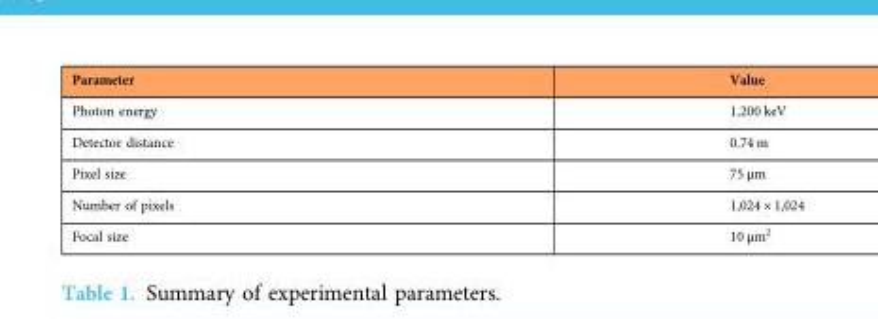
<table><thead><tr><td>Parameter</td><td>Value</td></tr></thead><tbody><tr><td>Photon energy</td><td>1,200 keV</td></tr><tr><td>Detector distance</td><td>0.74 m</td></tr><tr><td>Pixel size</td><td>75 μm</td></tr><tr><td>Number of pixels</td><td>1,024 × 1,024</td></tr><tr><td>Focal size</td><td>10 μm<sup>2</sup></td></tr></tbody></table>